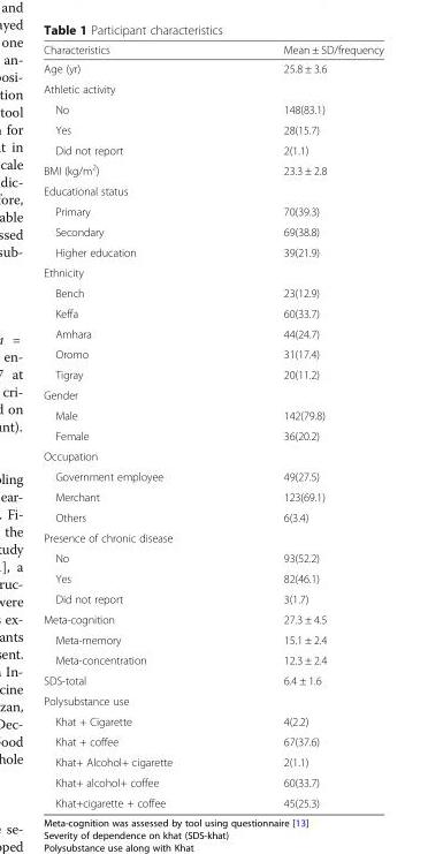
<table><thead><tr><td>Characteristics</td><td>Mean ± SD/frequency</td></tr></thead><tbody><tr><td>Age (yr)</td><td>25.8 ± 3.6</td></tr><tr><td colspan="2">Athletic activity</td></tr><tr><td>No</td><td>148(83.1)</td></tr><tr><td>Yes</td><td>28(15.7)</td></tr><tr><td>Did not report</td><td>2(1.1)</td></tr><tr><td>BMI (kg/m<sup>2</sup>)</td><td>23.3 ± 2.8</td></tr><tr><td colspan="2">Educational status</td></tr><tr><td>Primary</td><td>70(39.3)</td></tr><tr><td>Secondary</td><td>69(38.8)</td></tr><tr><td>Higher education</td><td>39(21.9)</td></tr><tr><td colspan="2">Ethnicity</td></tr><tr><td>Bench</td><td>23(12.9)</td></tr><tr><td>Keffa</td><td>60(33.7)</td></tr><tr><td>Amhara</td><td>44(24.7)</td></tr><tr><td>Oromo</td><td>31(17.4)</td></tr><tr><td>Tigray</td><td>20(11.2)</td></tr><tr><td colspan="2">Gender</td></tr><tr><td>Male</td><td>142(79.8)</td></tr><tr><td>Female</td><td>36(20.2)</td></tr><tr><td colspan="2">Occupation</td></tr><tr><td>Government employee</td><td>49(27.5)</td></tr><tr><td>Merchant</td><td>123(69.1)</td></tr><tr><td>Others</td><td>6(3.4)</td></tr><tr><td colspan="2">Presence of chronic disease</td></tr><tr><td>No</td><td>93(52.2)</td></tr><tr><td>Yes</td><td>82(46.1)</td></tr><tr><td>Did not report</td><td>3(1.7)</td></tr><tr><td>Meta-cognition</td><td>27.3 ± 4.5</td></tr><tr><td>Meta-memory</td><td>15.1 ± 2.4</td></tr><tr><td>Meta-concentration</td><td>12.3 ± 2.4</td></tr><tr><td>SDS-total</td><td>6.4 ± 1.6</td></tr><tr><td colspan="2">Polysubstance use</td></tr><tr><td>Khat + Cigarette</td><td>4(2.2)</td></tr><tr><td>Khat + coffee</td><td>67(37.6)</td></tr><tr><td>Khat+ Alcohol+ cigarette</td><td>2(1.1)</td></tr><tr><td>Khat+ alcohol+ coffee</td><td>60(33.7)</td></tr><tr><td>Khat+cigarette + coffee</td><td>45(25.3)</td></tr></tbody></table>